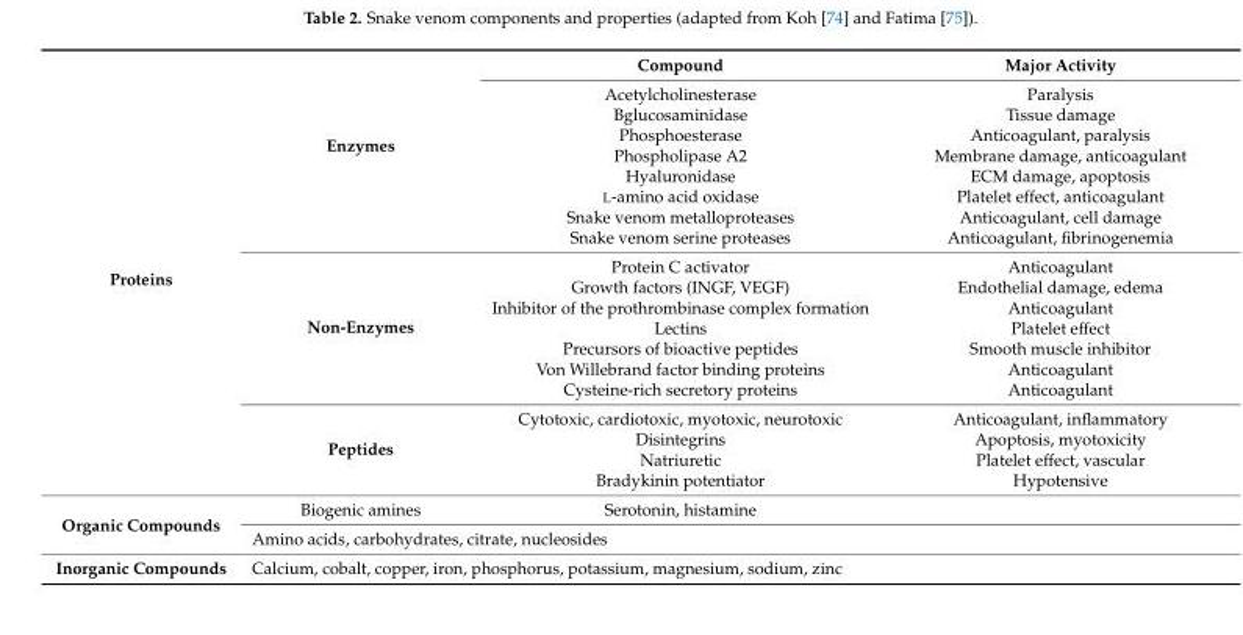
<table><tbody><tr><td rowspan="20">Proteins</td><td rowspan="9">Enzymes</td><td>Compound</td><td>Major Activity</td></tr><tr><td>Acetylcholinesterase</td><td>Paralysis</td></tr><tr><td>Bglucosaminidase</td><td>Tissue damage</td></tr><tr><td>Phosphoesterase</td><td>Anticoagulant, paralysis</td></tr><tr><td>Phospholipase A2</td><td>Membrane damage, anticoagulant</td></tr><tr><td>Hyaluronidase</td><td>ECM damage, apoptosis</td></tr><tr><td>L-amino acid oxidase</td><td>Platelet effect, anticoagulant</td></tr><tr><td>Snake venom metalloproteases</td><td>Anticoagulant, cell damage</td></tr><tr><td>Snake venom serine proteases</td><td>Anticoagulant, fibrinogenemia</td></tr><tr><td rowspan="7">Non-Enzymes</td><td>Protein C activator</td><td>Anticoagulant</td></tr><tr><td>Growth factors (INGF, VEGF)</td><td>Endothelial damage, edema</td></tr><tr><td>Inhibitor of the prothrombinase complex formation</td><td>Anticoagulant</td></tr><tr><td>Lectins</td><td>Platelet effect</td></tr><tr><td>Precursors of bioactive peptides</td><td>Smooth muscle inhibitor</td></tr><tr><td>Von Willebrand factor binding proteins</td><td>Anticoagulant</td></tr><tr><td>Cysteine-rich secretory proteins</td><td>Anticoagulant</td></tr><tr><td rowspan="4">Peptides</td><td>Cytotoxic, cardiotoxic, myotoxic, neurotoxic</td><td>Anticoagulant, inflammatory</td></tr><tr><td>Disintegrins</td><td>Apoptosis, myotoxicity</td></tr><tr><td>Natriuretic</td><td>Platelet effect, vascular</td></tr><tr><td>Bradykinin potentiator</td><td>Hypotensive</td></tr><tr><td rowspan="2">Organic Compounds</td><td>Biogenic amines</td><td>Serotonin, histamine</td><td></td></tr><tr><td colspan="2">Amino acids, carbohydrates, citrate, nucleosides</td><td></td></tr><tr><td>Inorganic Compounds</td><td colspan="2">Calcium, cobalt, copper, iron, phosphorus, potassium, magnesium, sodium, zinc</td><td></td></tr></tbody></table>